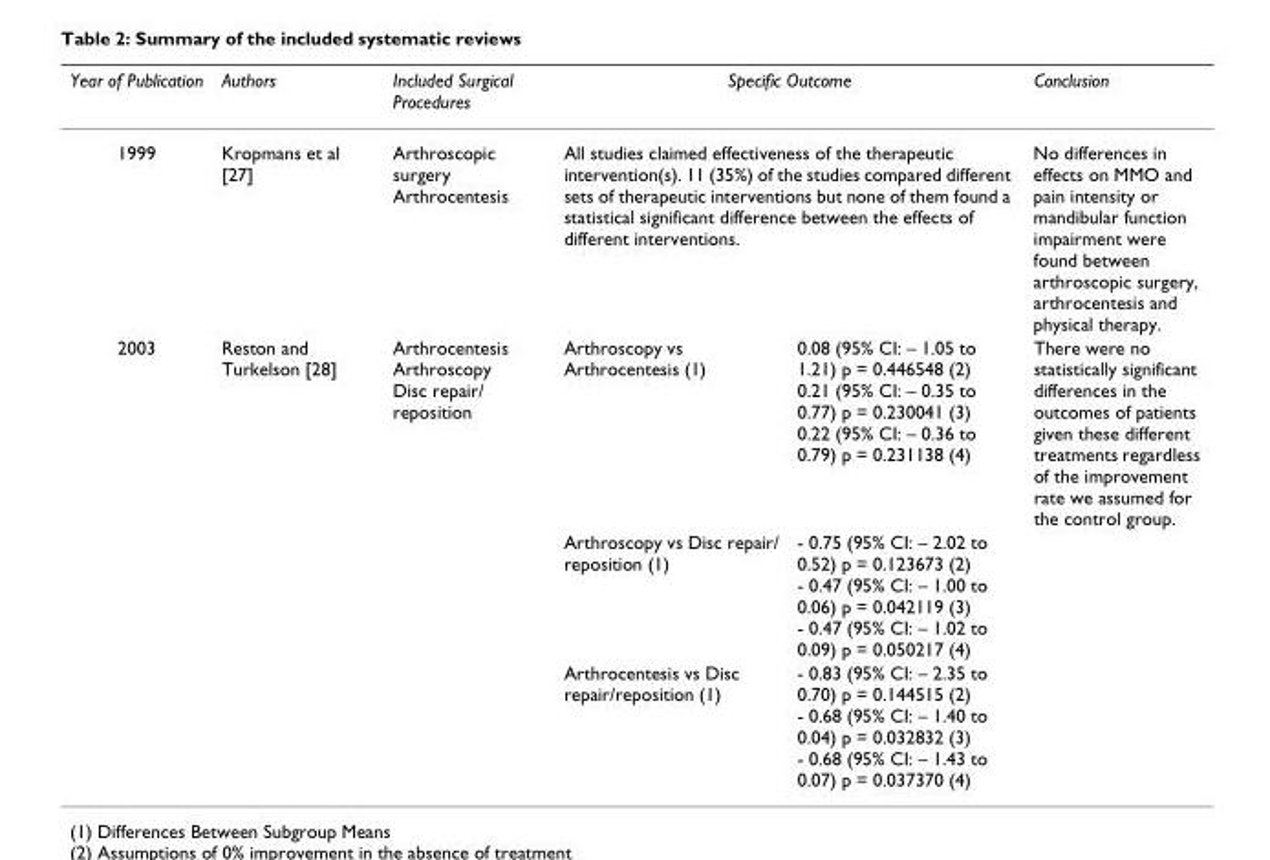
<table><thead><tr><td rowspan="3">Year of Publication 1999 2003</td><td rowspan="3">Authors Kropmans et al [27] Reston and Turkelson [28]</td><td rowspan="3">Included Surgical Procedures Arthroscopic surgery Arthrocentesis Arthrocentesis Arthroscopy Disc repair/ reposition</td><td rowspan="2" colspan="2">Specific Outcome All studies claimed effectiveness of the therapeutic intervention(s). 11 (35%) of the studies compared different sets of therapeutic interventions but none of them found a statistical significant difference between the effects of different interventions.</td><td rowspan="3">Conclusion No differences in effects on MMO and pain intensity or mandibular function impairment were found between arthroscopic surgery, arthrocentesis and physical therapy. There were no statistically significant differences in the outcomes of patients given these different treatments regardless of the improvement rate we assumed for the control group.</td></tr><tr></tr><tr><td>Arthroscopy vs Arthrocentesis (1)</td><td>0.08 (95% CI: – 1.05 to 1.21) p = 0.446548 (2) 0.21 (95% CI: – 0.35 to 0.77) p = 0.230041 (3) 0.22 (95% CI: – 0.36 to 0.79) p = 0.231138 (4)</td></tr></thead><tbody><tr><td></td><td></td><td></td><td>Arthroscopy vs Disc repair/ reposition (1)</td><td>- 0.75 (95% CI: – 2.02 to 0.52) p = 0.123673 (2) - 0.47 (95% CI: – 1.00 to 0.06) p = 0.042119 (3) - 0.47 (95% CI: – 1.02 to 0.09) p = 0.050217 (4)</td><td></td></tr><tr><td></td><td></td><td></td><td>Arthrocentesis vs Disc repair/reposition (1)</td><td>- 0.83 (95% CI: – 2.35 to 0.70) p = 0.144515 (2) - 0.68 (95% CI: – 1.40 to 0.04) p = 0.032832 (3) - 0.68 (95% CI: – 1.43 to 0.07) p = 0.037370 (4)</td><td></td></tr></tbody></table>